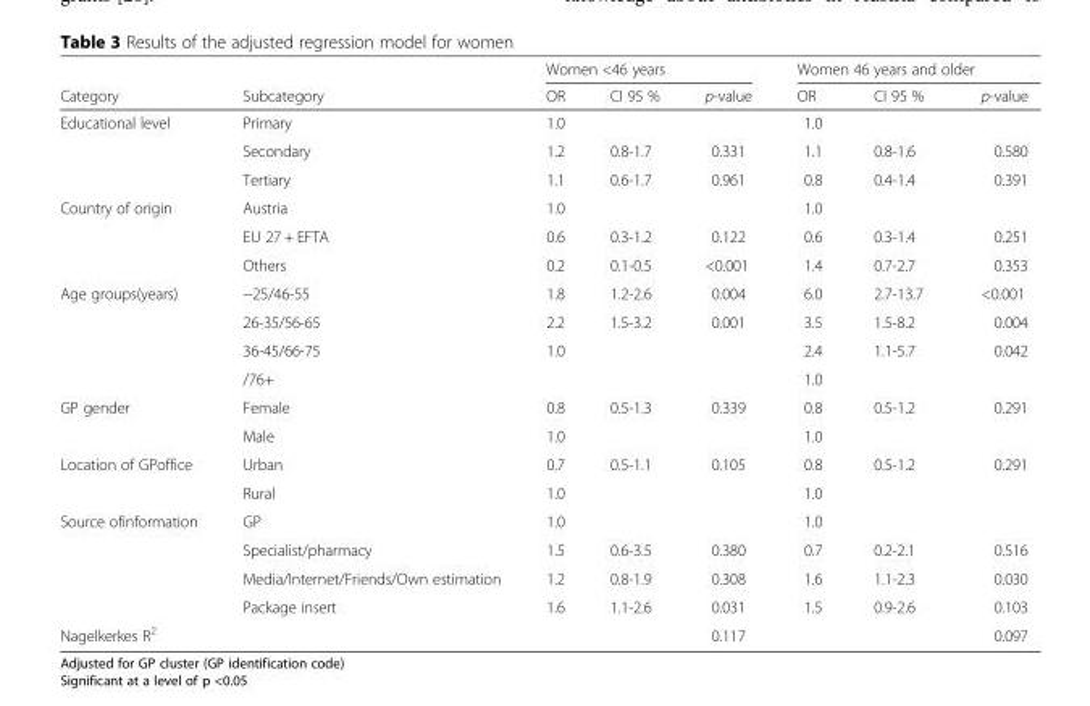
<table><thead><tr><td rowspan="2">Category</td><td rowspan="2">Subcategory</td><td colspan="3">Women &lt;46 years</td><td colspan="3">Women 46 years and older</td></tr><tr><td>OR</td><td>CI 95 %</td><td>p-value</td><td>OR</td><td>CI 95 %</td><td>p-value</td></tr></thead><tbody><tr><td rowspan="3">Educational level</td><td>Primary</td><td>1.0</td><td></td><td></td><td>1.0</td><td></td><td></td></tr><tr><td>Secondary</td><td>1.2</td><td>0.8-1.7</td><td>0.331</td><td>1.1</td><td>0.8-1.6</td><td>0.580</td></tr><tr><td>Tertiary</td><td>1.1</td><td>0.6-1.7</td><td>0.961</td><td>0.8</td><td>0.4-1.4</td><td>0.391</td></tr><tr><td rowspan="3">Country of origin</td><td>Austria</td><td>1.0</td><td></td><td></td><td>1.0</td><td></td><td></td></tr><tr><td>EU 27 + EFTA</td><td>0.6</td><td>0.3-1.2</td><td>0.122</td><td>0.6</td><td>0.3-1.4</td><td>0.251</td></tr><tr><td>Others</td><td>0.2</td><td>0.1-0.5</td><td>&lt;0.001</td><td>1.4</td><td>0.7-2.7</td><td>0.353</td></tr><tr><td rowspan="4">Age groups(years)</td><td>−25/46-55</td><td>1.8</td><td>1.2-2.6</td><td>0.004</td><td>6.0</td><td>2.7-13.7</td><td>&lt;0.001</td></tr><tr><td>26-35/56-65</td><td>2.2</td><td>1.5-3.2</td><td>0.001</td><td>3.5</td><td>1.5-8.2</td><td>0.004</td></tr><tr><td>36-45/66-75</td><td>1.0</td><td></td><td></td><td>2.4</td><td>1.1-5.7</td><td>0.042</td></tr><tr><td>/76+</td><td></td><td></td><td></td><td>1.0</td><td></td><td></td></tr><tr><td rowspan="2">GP gender</td><td>Female</td><td>0.8</td><td>0.5-1.3</td><td>0.339</td><td>0.8</td><td>0.5-1.2</td><td>0.291</td></tr><tr><td>Male</td><td>1.0</td><td></td><td></td><td>1.0</td><td></td><td></td></tr><tr><td rowspan="2">Location of GPoffice</td><td>Urban</td><td>0.7</td><td>0.5-1.1</td><td>0.105</td><td>0.8</td><td>0.5-1.2</td><td>0.291</td></tr><tr><td>Rural</td><td>1.0</td><td></td><td></td><td>1.0</td><td></td><td></td></tr><tr><td rowspan="4">Source ofinformation</td><td>GP</td><td>1.0</td><td></td><td></td><td>1.0</td><td></td><td></td></tr><tr><td>Specialist/pharmacy</td><td>1.5</td><td>0.6-3.5</td><td>0.380</td><td>0.7</td><td>0.2-2.1</td><td>0.516</td></tr><tr><td>Media/Internet/Friends/Own estimation</td><td>1.2</td><td>0.8-1.9</td><td>0.308</td><td>1.6</td><td>1.1-2.3</td><td>0.030</td></tr><tr><td>Package insert</td><td>1.6</td><td>1.1-2.6</td><td>0.031</td><td>1.5</td><td>0.9-2.6</td><td>0.103</td></tr><tr><td>Nagelkerkes R<sup>2</sup></td><td></td><td></td><td></td><td>0.117</td><td></td><td></td><td>0.097</td></tr></tbody></table>